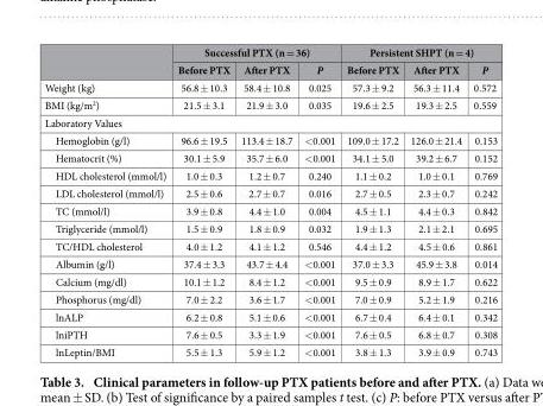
<table><thead><tr><td rowspan="2"></td><td colspan="3">Successful PTX (n = 36)</td><td colspan="3">Persistent SHPT (n = 4)</td></tr><tr><td>Before PTX</td><td>After PTX</td><td>P</td><td>Before PTX</td><td>After PTX</td><td>P</td></tr></thead><tbody><tr><td>Weight (kg)</td><td>56.8 ± 10.3</td><td>58.4 ± 10.8</td><td>0.025</td><td>57.3 ± 9.2</td><td>56.3 ± 11.4</td><td>0.572</td></tr><tr><td>BMI (kg/m<sup>2</sup>)</td><td>21.5 ± 3.1</td><td>21.9 ± 3.0</td><td>0.035</td><td>19.6 ± 2.5</td><td>19.3 ± 2.5</td><td>0.559</td></tr><tr><td colspan="7">Laboratory Values</td></tr><tr><td>Hemoglobin (g/l)</td><td>96.6 ± 19.5</td><td>113.4 ± 18.7</td><td>&lt;0.001</td><td>109.0 ± 17.2</td><td>126.0 ± 21.4</td><td>0.153</td></tr><tr><td>Hematocrit (%)</td><td>30.1 ± 5.9</td><td>35.7 ± 6.0</td><td>&lt;0.001</td><td>34.1 ± 5.0</td><td>39.2 ± 6.7</td><td>0.152</td></tr><tr><td>HDL cholesterol (mmol/l)</td><td>1.0 ± 0.3</td><td>1.2 ± 0.7</td><td>0.240</td><td>1.1 ± 0.2</td><td>1.0 ± 0.1</td><td>0.769</td></tr><tr><td>LDL cholesterol (mmol/l)</td><td>2.5 ± 0.6</td><td>2.7 ± 0.7</td><td>0.016</td><td>2.7 ± 0.5</td><td>2.3 ± 0.7</td><td>0.242</td></tr><tr><td>TC (mmol/l)</td><td>3.9 ± 0.8</td><td>4.4 ± 1.0</td><td>0.004</td><td>4.5 ± 1.1</td><td>4.4 ± 0.3</td><td>0.842</td></tr><tr><td>Triglyceride (mmol/l)</td><td>1.5 ± 0.9</td><td>1.8 ± 0.9</td><td>0.032</td><td>1.9 ± 1.3</td><td>2.1 ± 2.1</td><td>0.695</td></tr><tr><td>TC/HDL cholesterol</td><td>4.0 ± 1.2</td><td>4.1 ± 1.2</td><td>0.546</td><td>4.4 ± 1.2</td><td>4.5 ± 0.6</td><td>0.861</td></tr><tr><td>Albumin (g/l)</td><td>37.4 ± 3.3</td><td>43.7 ± 4.4</td><td>&lt;0.001</td><td>37.0 ± 3.3</td><td>45.9 ± 3.8</td><td>0.014</td></tr><tr><td>Calcium (mg/dl)</td><td>10.1 ± 1.2</td><td>8.4 ± 1.2</td><td>&lt;0.001</td><td>9.5 ± 0.9</td><td>8.9 ± 1.7</td><td>0.622</td></tr><tr><td>Phosphorus (mg/dl)</td><td>7.0 ± 2.2</td><td>3.6 ± 1.7</td><td>&lt;0.001</td><td>7.0 ± 0.9</td><td>5.2 ± 1.9</td><td>0.216</td></tr><tr><td>lnALP</td><td>6.2 ± 0.8</td><td>5.1 ± 0.6</td><td>&lt;0.001</td><td>6.7 ± 0.4</td><td>6.4 ± 0.1</td><td>0.342</td></tr><tr><td>lniPTH</td><td>7.6 ± 0.5</td><td>3.3 ± 1.9</td><td>&lt;0.001</td><td>7.6 ± 0.5</td><td>6.8 ± 0.7</td><td>0.308</td></tr><tr><td>lnLeptin/BMI</td><td>5.5 ± 1.3</td><td>5.9 ± 1.2</td><td>&lt;0.001</td><td>3.8 ± 1.3</td><td>3.9 ± 0.9</td><td>0.743</td></tr></tbody></table>